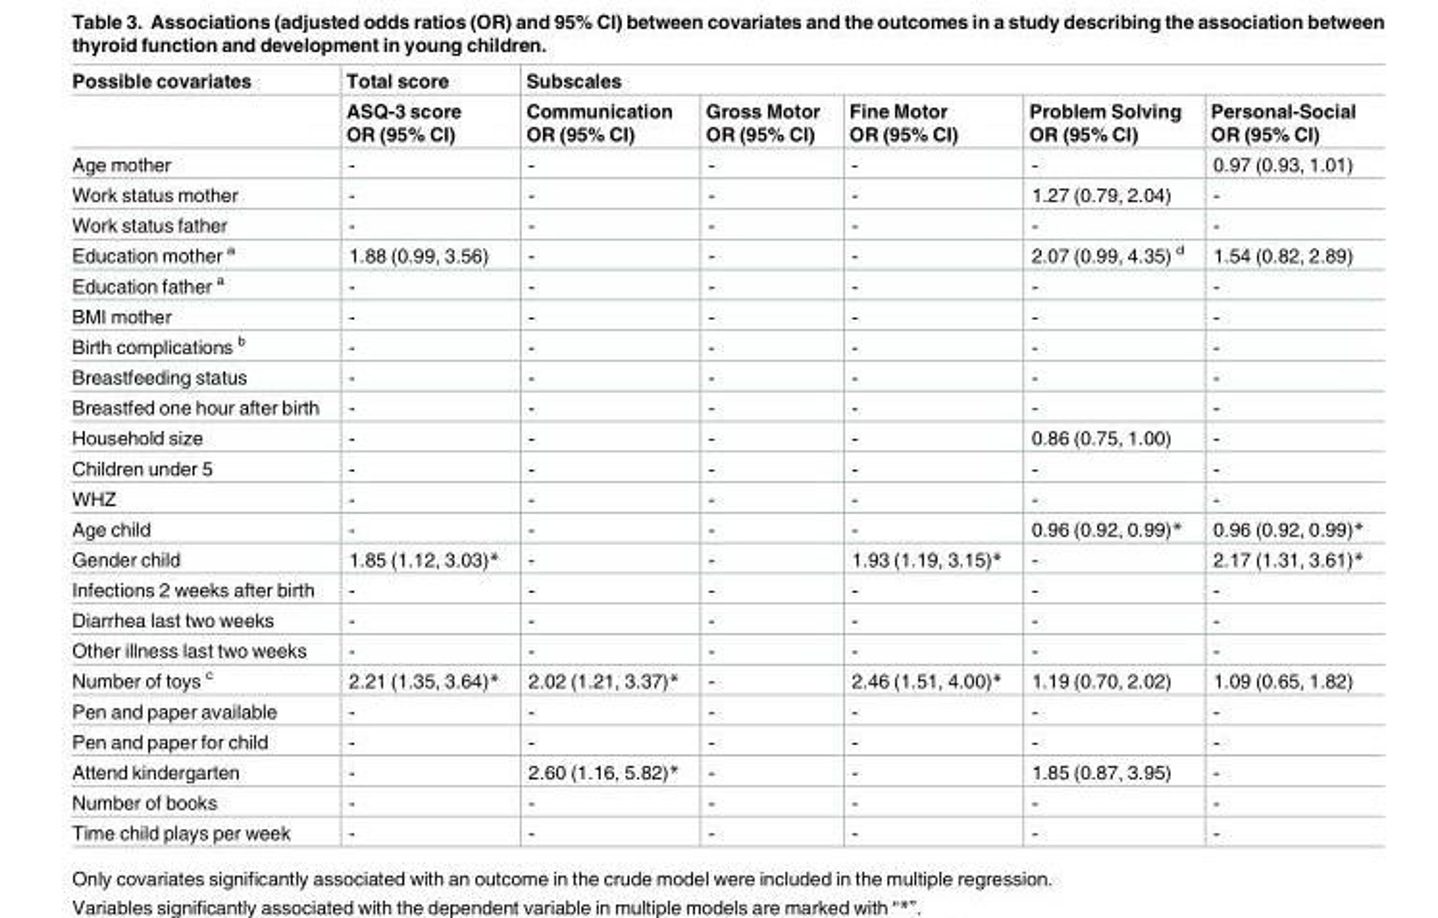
<table><thead><tr><td rowspan="2">Possible covariates</td><td rowspan="2">Total score ASQ-3 score OR (95% CI)</td><td colspan="5">Subscales</td></tr><tr><td>Communication OR (95% CI)</td><td>Gross Motor OR (95% CI)</td><td>Fine Motor OR (95% CI)</td><td>Problem Solving OR (95% CI)</td><td>Personal-Social OR (95% CI)</td></tr></thead><tbody><tr><td>Age mother</td><td>-</td><td>-</td><td>-</td><td>-</td><td>-</td><td>0.97 (0.93, 1.01)</td></tr><tr><td>Work status mother</td><td>-</td><td>-</td><td>-</td><td>-</td><td>1.27 (0.79, 2.04)</td><td>-</td></tr><tr><td>Work status father</td><td>-</td><td>-</td><td>-</td><td>-</td><td>-</td><td>-</td></tr><tr><td>Education mother <sup>a</sup></td><td>1.88 (0.99, 3.56)</td><td>-</td><td>-</td><td>-</td><td>2.07 (0.99, 4.35) <sup>d</sup></td><td>1.54 (0.82, 2.89)</td></tr><tr><td>Education father <sup>a</sup></td><td>-</td><td>-</td><td>-</td><td>-</td><td>-</td><td>-</td></tr><tr><td>BMI mother</td><td>-</td><td>-</td><td>-</td><td>-</td><td>-</td><td>-</td></tr><tr><td>Birth complications <sup>b</sup></td><td>-</td><td>-</td><td>-</td><td>-</td><td>-</td><td>-</td></tr><tr><td>Breastfeeding status</td><td>-</td><td>-</td><td>-</td><td>-</td><td>-</td><td>-</td></tr><tr><td>Breastfed one hour after birth</td><td>-</td><td>-</td><td>-</td><td>-</td><td>-</td><td>-</td></tr><tr><td>Household size</td><td>-</td><td>-</td><td>-</td><td>-</td><td>0.86 (0.75, 1.00)</td><td>-</td></tr><tr><td>Children under 5</td><td>-</td><td>-</td><td>-</td><td>-</td><td>-</td><td>-</td></tr><tr><td>WHZ</td><td>-</td><td>-</td><td>-</td><td>-</td><td>-</td><td>-</td></tr><tr><td>Age child</td><td>-</td><td>-</td><td>-</td><td>-</td><td>0.96 (0.92, 0.99)*</td><td>0.96 (0.92, 0.99)*</td></tr><tr><td>Gender child</td><td>1.85 (1.12, 3.03)*</td><td>-</td><td>-</td><td>1.93 (1.19, 3.15)*</td><td>-</td><td>2.17 (1.31, 3.61)*</td></tr><tr><td>Infections 2 weeks after birth</td><td>-</td><td>-</td><td>-</td><td>-</td><td>-</td><td>-</td></tr><tr><td>Diarrhea last two weeks</td><td>-</td><td>-</td><td>-</td><td>-</td><td>-</td><td>-</td></tr><tr><td>Other illness last two weeks</td><td>-</td><td>-</td><td>-</td><td>-</td><td>-</td><td>-</td></tr><tr><td>Number of toys <sup>c</sup></td><td>2.21 (1.35, 3.64)*</td><td>2.02 (1.21, 3.37)*</td><td>-</td><td>2.46 (1.51, 4.00)*</td><td>1.19 (0.70, 2.02)</td><td>1.09 (0.65, 1.82)</td></tr><tr><td>Pen and paper available</td><td>-</td><td>-</td><td>-</td><td>-</td><td>-</td><td>-</td></tr><tr><td>Pen and paper for child</td><td>-</td><td>-</td><td>-</td><td>-</td><td>-</td><td>-</td></tr><tr><td>Attend kindergarten</td><td>-</td><td>2.60 (1.16, 5.82)*</td><td>-</td><td>-</td><td>1.85 (0.87, 3.95)</td><td>-</td></tr><tr><td>Number of books</td><td>-</td><td>-</td><td>-</td><td>-</td><td>-</td><td>-</td></tr><tr><td>Time child plays per week</td><td>-</td><td>-</td><td>-</td><td>-</td><td>-</td><td>-</td></tr></tbody></table>